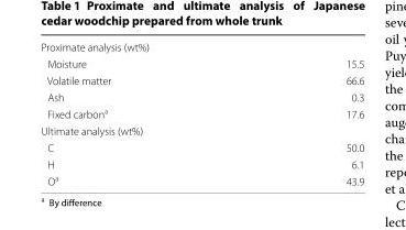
<table><tbody><tr><td colspan="2">Proximate analysis (wt%)</td></tr><tr><td>Moisture</td><td>15.5</td></tr><tr><td>Volatile matter</td><td>66.6</td></tr><tr><td>Ash</td><td>0.3</td></tr><tr><td>Fixed carbon<sup>a</sup></td><td>17.6</td></tr><tr><td colspan="2">Ultimate analysis (wt%)</td></tr><tr><td>C</td><td>50.0</td></tr><tr><td>H</td><td>6.1</td></tr><tr><td>O<sup>a</sup></td><td>43.9</td></tr></tbody></table>